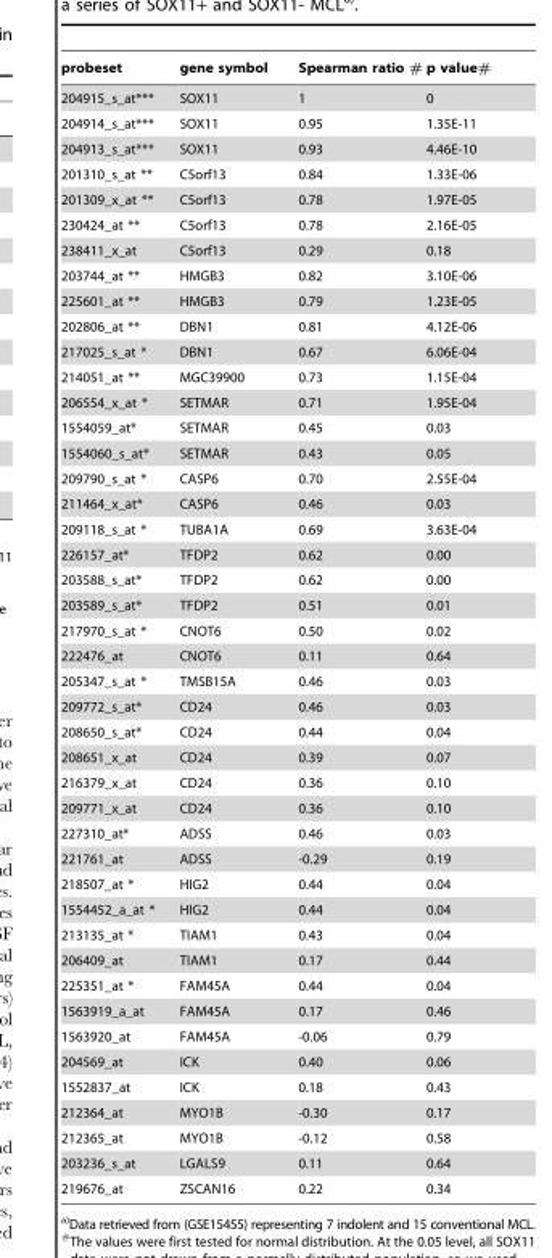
<table><thead><tr><td>probeset</td><td>gene symbol</td><td>Spearman ratio #</td><td>p value#</td></tr></thead><tbody><tr><td>204915_s_at***</td><td>SOX11</td><td>1</td><td>0</td></tr><tr><td>204914_s_at***</td><td>SOX11</td><td>0.95</td><td>1.35E-11</td></tr><tr><td>204913_s_at***</td><td>SOX11</td><td>0.93</td><td>4.46E-10</td></tr><tr><td>201310_s_at **</td><td>C5orf13</td><td>0.84</td><td>1.33E-06</td></tr><tr><td>201309_x_at **</td><td>C5orf13</td><td>0.78</td><td>1.97E-05</td></tr><tr><td>230424_at **</td><td>C5orf13</td><td>0.78</td><td>2.16E-05</td></tr><tr><td>238411_x_at</td><td>C5orf13</td><td>0.29</td><td>0.18</td></tr><tr><td>203744_at **</td><td>HMGB3</td><td>0.82</td><td>3.10E-06</td></tr><tr><td>225601_at **</td><td>HMGB3</td><td>0.79</td><td>1.23E-05</td></tr><tr><td>202806_at **</td><td>DBN1</td><td>0.81</td><td>4.12E-06</td></tr><tr><td>217025_s_at *</td><td>DBN1</td><td>0.67</td><td>6.06E-04</td></tr><tr><td>214051_at **</td><td>MGC39900</td><td>0.73</td><td>1.15E-04</td></tr><tr><td>206554_x_at *</td><td>SETMAR</td><td>0.71</td><td>1.95E-04</td></tr><tr><td>1554059_at*</td><td>SETMAR</td><td>0.45</td><td>0.03</td></tr><tr><td>1554060_s_at*</td><td>SETMAR</td><td>0.43</td><td>0.05</td></tr><tr><td>209790_s_at *</td><td>CASP6</td><td>0.70</td><td>2.55E-04</td></tr><tr><td>211464_x_at*</td><td>CASP6</td><td>0.46</td><td>0.03</td></tr><tr><td>209118_s_at *</td><td>TUBA1A</td><td>0.69</td><td>3.63E-04</td></tr><tr><td>226157_at*</td><td>TFDP2</td><td>0.62</td><td>0.00</td></tr><tr><td>203588_s_at*</td><td>TFDP2</td><td>0.62</td><td>0.00</td></tr><tr><td>203589_s_at*</td><td>TFDP2</td><td>0.51</td><td>0.01</td></tr><tr><td>217970_s_at *</td><td>CNOT6</td><td>0.50</td><td>0.02</td></tr><tr><td>222476_at</td><td>CNOT6</td><td>0.11</td><td>0.64</td></tr><tr><td>205347_s_at *</td><td>TMSB15A</td><td>0.46</td><td>0.03</td></tr><tr><td>209772_s_at*</td><td>CD24</td><td>0.46</td><td>0.03</td></tr><tr><td>208650_s_at*</td><td>CD24</td><td>0.44</td><td>0.04</td></tr><tr><td>208651_x_at</td><td>CD24</td><td>0.39</td><td>0.07</td></tr><tr><td>216379_x_at</td><td>CD24</td><td>0.36</td><td>0.10</td></tr><tr><td>209771_x_at</td><td>CD24</td><td>0.36</td><td>0.10</td></tr><tr><td>227310_at*</td><td>ADSS</td><td>0.46</td><td>0.03</td></tr><tr><td>221761_at</td><td>ADSS</td><td>-0.29</td><td>0.19</td></tr><tr><td>218507_at *</td><td>HIG2</td><td>0.44</td><td>0.04</td></tr><tr><td>1554452_a_at *</td><td>HIG2</td><td>0.44</td><td>0.04</td></tr><tr><td>213135_at *</td><td>TIAM1</td><td>0.43</td><td>0.04</td></tr><tr><td>206409_at</td><td>TIAM1</td><td>0.17</td><td>0.44</td></tr><tr><td>225351_at *</td><td>FAM45A</td><td>0.44</td><td>0.04</td></tr><tr><td>1563919_a_at</td><td>FAM45A</td><td>0.17</td><td>0.46</td></tr><tr><td>1563920_at</td><td>FAM45A</td><td>-0.06</td><td>0.79</td></tr><tr><td>204569_at</td><td>ICK</td><td>0.40</td><td>0.06</td></tr><tr><td>1552837_at</td><td>ICK</td><td>0.18</td><td>0.43</td></tr><tr><td>212364_at</td><td>MYO1B</td><td>-0.30</td><td>0.17</td></tr><tr><td>212365_at</td><td>MYO1B</td><td>-0.12</td><td>0.58</td></tr><tr><td>203236_s_at</td><td>LGALS9</td><td>0.11</td><td>0.64</td></tr><tr><td>219676_at</td><td>ZSCAN16</td><td>0.22</td><td>0.34</td></tr></tbody></table>